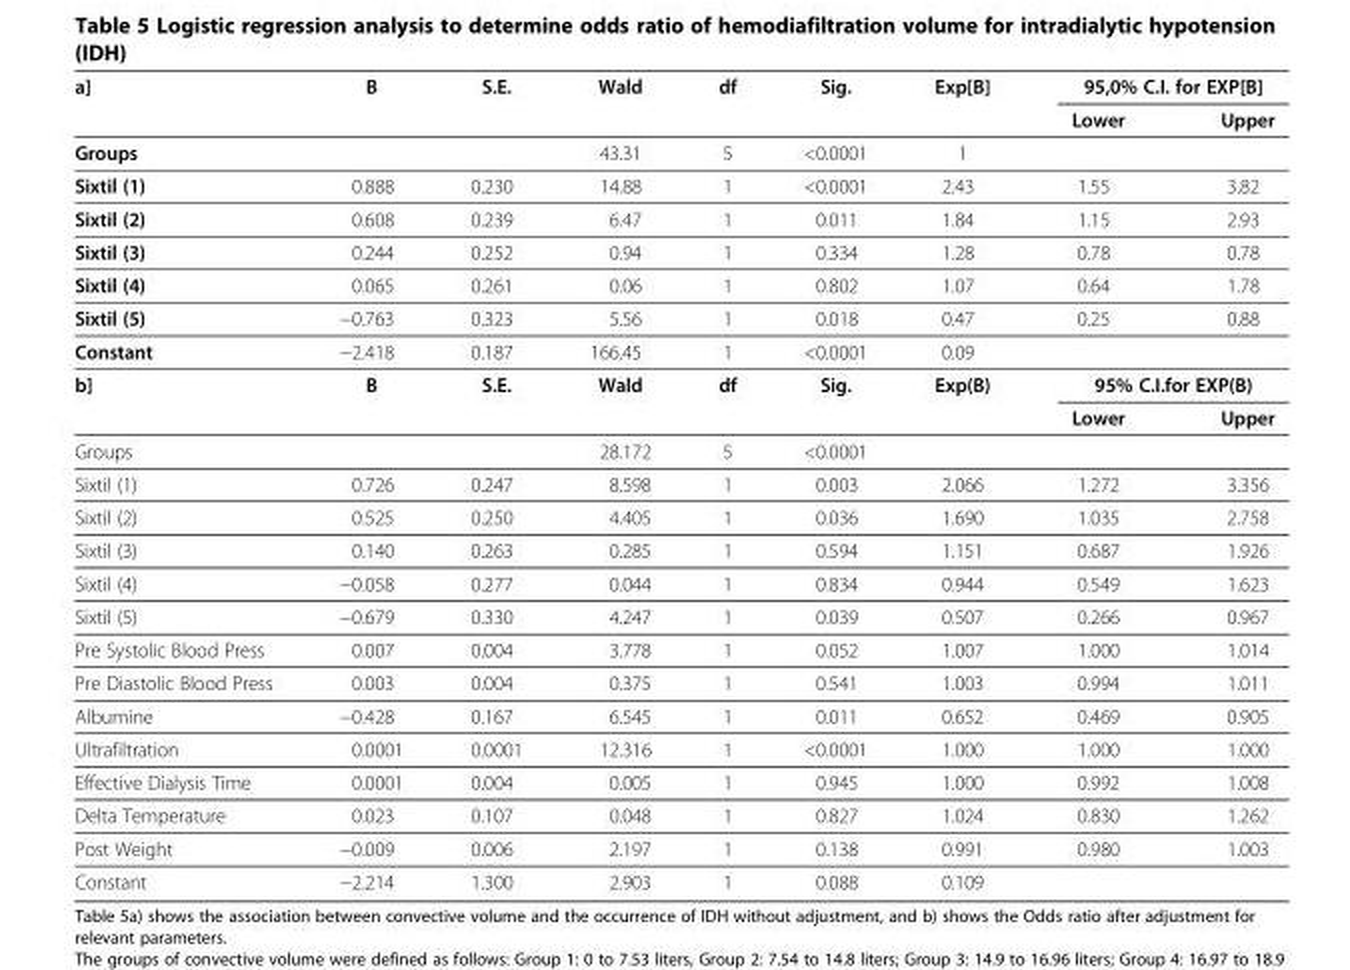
<table><thead><tr><td rowspan="2">a]</td><td rowspan="2">B</td><td rowspan="2">S.E.</td><td rowspan="2">Wald</td><td rowspan="2">df</td><td rowspan="2">Sig.</td><td rowspan="2">Exp[B]</td><td colspan="2">95,0% C.I. for EXP[B]</td></tr><tr><td>Lower</td><td>Upper</td></tr></thead><tbody><tr><td>Groups</td><td></td><td></td><td>43.31</td><td>5</td><td>&lt;0.0001</td><td>1</td><td></td><td></td></tr><tr><td>Sixtil (1)</td><td>0.888</td><td>0.230</td><td>14.88</td><td>1</td><td>&lt;0.0001</td><td>2.43</td><td>1.55</td><td>3.82</td></tr><tr><td>Sixtil (2)</td><td>0.608</td><td>0.239</td><td>6.47</td><td>1</td><td>0.011</td><td>1.84</td><td>1.15</td><td>2.93</td></tr><tr><td>Sixtil (3)</td><td>0.244</td><td>0.252</td><td>0.94</td><td>1</td><td>0.334</td><td>1.28</td><td>0.78</td><td>0.78</td></tr><tr><td>Sixtil (4)</td><td>0.065</td><td>0.261</td><td>0.06</td><td>1</td><td>0.802</td><td>1.07</td><td>0.64</td><td>1.78</td></tr><tr><td>Sixtil (5)</td><td>−0.763</td><td>0.323</td><td>5.56</td><td>1</td><td>0.018</td><td>0.47</td><td>0.25</td><td>0.88</td></tr><tr><td>Constant</td><td>−2.418</td><td>0.187</td><td>166.45</td><td>1</td><td>&lt;0.0001</td><td>0.09</td><td></td><td></td></tr><tr><td rowspan="2">b]</td><td>B</td><td>S.E.</td><td>Wald</td><td>df</td><td>Sig.</td><td>Exp(B)</td><td colspan="2">95% C.I.for EXP(B)</td></tr><tr><td></td><td></td><td></td><td></td><td></td><td></td><td>Lower</td><td>Upper</td></tr><tr><td>Groups</td><td></td><td></td><td>28.172</td><td>5</td><td>&lt;0.0001</td><td></td><td></td><td></td></tr><tr><td>Sixtil (1)</td><td>0.726</td><td>0.247</td><td>8.598</td><td>1</td><td>0.003</td><td>2.066</td><td>1.272</td><td>3.356</td></tr><tr><td>Sixtil (2)</td><td>0.525</td><td>0.250</td><td>4.405</td><td>1</td><td>0.036</td><td>1.690</td><td>1.035</td><td>2.758</td></tr><tr><td>Sixtil (3)</td><td>0.140</td><td>0.263</td><td>0.285</td><td>1</td><td>0.594</td><td>1.151</td><td>0.687</td><td>1.926</td></tr><tr><td>Sixtil (4)</td><td>−0.058</td><td>0.277</td><td>0.044</td><td>1</td><td>0.834</td><td>0.944</td><td>0.549</td><td>1.623</td></tr><tr><td>Sixtil (5)</td><td>−0.679</td><td>0.330</td><td>4.247</td><td>1</td><td>0.039</td><td>0.507</td><td>0.266</td><td>0.967</td></tr><tr><td>Pre Systolic Blood Press</td><td>0.007</td><td>0.004</td><td>3.778</td><td>1</td><td>0.052</td><td>1.007</td><td>1.000</td><td>1.014</td></tr><tr><td>Pre Diastolic Blood Press</td><td>0.003</td><td>0.004</td><td>0.375</td><td>1</td><td>0.541</td><td>1.003</td><td>0.994</td><td>1.011</td></tr><tr><td>Albumine</td><td>−0.428</td><td>0.167</td><td>6.545</td><td>1</td><td>0.011</td><td>0.652</td><td>0.469</td><td>0.905</td></tr><tr><td>Ultrafiltration</td><td>0.0001</td><td>0.0001</td><td>12.316</td><td>1</td><td>&lt;0.0001</td><td>1.000</td><td>1.000</td><td>1.000</td></tr><tr><td>Effective Dialysis Time</td><td>0.0001</td><td>0.004</td><td>0.005</td><td>1</td><td>0.945</td><td>1.000</td><td>0.992</td><td>1.008</td></tr><tr><td>Delta Temperature</td><td>0.023</td><td>0.107</td><td>0.048</td><td>1</td><td>0.827</td><td>1.024</td><td>0.830</td><td>1.262</td></tr><tr><td>Post Weight</td><td>−0.009</td><td>0.006</td><td>2.197</td><td>1</td><td>0.138</td><td>0.991</td><td>0.980</td><td>1.003</td></tr><tr><td>Constant</td><td>−2.214</td><td>1.300</td><td>2.903</td><td>1</td><td>0.088</td><td>0.109</td><td></td><td></td></tr></tbody></table>